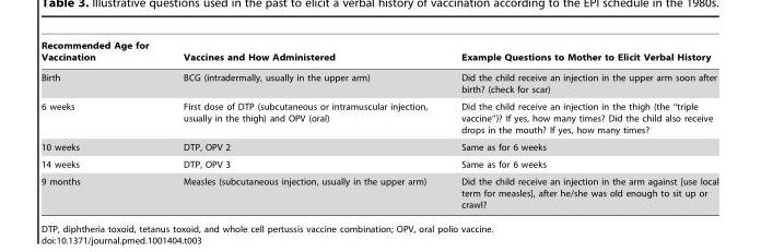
<table><thead><tr><td>Recommended Age for Vaccination</td><td>Vaccines and How Administered</td><td>Example Questions to Mother to Elicit Verbal History</td></tr></thead><tbody><tr><td>Birth</td><td>BCG (intradermally, usually in the upper arm)</td><td>Did the child receive an injection in the upper arm soon after birth? (check for scar)</td></tr><tr><td>6 weeks</td><td>First dose of DTP (subcutaneous or intramuscular injection, usually in the thigh) and OPV (oral)</td><td>Did the child receive an injection in the thigh (the ‘‘triple vaccine’’)? If yes, how many times? Did the child also receive drops in the mouth? If yes, how many times?</td></tr><tr><td>10 weeks</td><td>DTP, OPV 2</td><td>Same as for 6 weeks</td></tr><tr><td>14 weeks</td><td>DTP, OPV 3</td><td>Same as for 6 weeks</td></tr><tr><td>9 months</td><td>Measles (subcutaneous injection, usually in the upper arm)</td><td>Did the child receive an injection in the arm against [use local term for measles], after he/she was old enough to sit up or crawl?</td></tr></tbody></table>